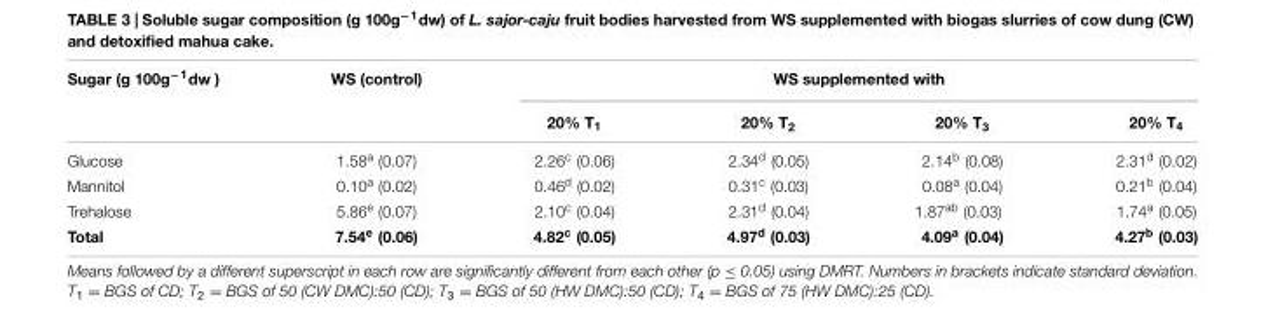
<table><thead><tr><td rowspan="2">Sugar (g 100g<sup>−1</sup>dw )</td><td rowspan="2">WS (control)</td><td colspan="4">WS supplemented with</td></tr><tr><td>20% T<sub>1</sub></td><td>20% T<sub>2</sub></td><td>20% T<sub>3</sub></td><td>20% T<sub>4</sub></td></tr></thead><tbody><tr><td>Glucose</td><td>1.58<sup>a</sup> (0.07)</td><td>2.26<sup>c</sup> (0.06)</td><td>2.34<sup>d</sup> (0.05)</td><td>2.14<sup>b</sup> (0.08)</td><td>2.31<sup>d</sup> (0.02)</td></tr><tr><td>Mannitol</td><td>0.10<sup>a</sup> (0.02)</td><td>0.46<sup>d</sup> (0.02)</td><td>0.31<sup>c</sup> (0.03)</td><td>0.08<sup>a</sup> (0.04)</td><td>0.21<sup>b</sup> (0.04)</td></tr><tr><td>Trehalose</td><td>5.86<sup>e</sup> (0.07)</td><td>2.10<sup>c</sup> (0.04)</td><td>2.31<sup>d</sup> (0.04)</td><td>1.87<sup>ab</sup> (0.03)</td><td>1.74<sup>a</sup> (0.05)</td></tr><tr><td>Total</td><td>7.54<sup>e</sup> (0.06)</td><td>4.82<sup>c</sup> (0.05)</td><td>4.97<sup>d</sup> (0.03)</td><td>4.09<sup>a</sup> (0.04)</td><td>4.27<sup>b</sup> (0.03)</td></tr></tbody></table>